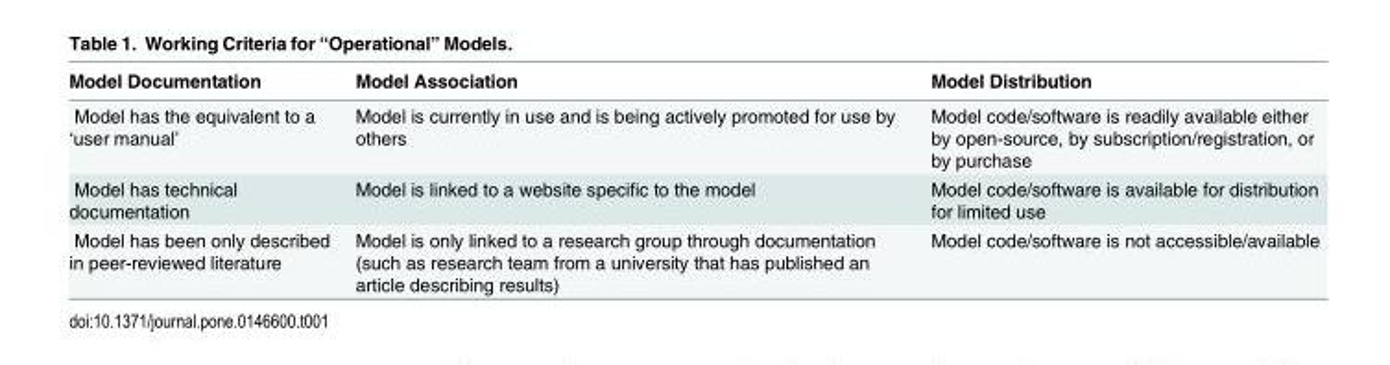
<table><thead><tr><td>Model Documentation</td><td>Model Association</td><td>Model Distribution</td></tr></thead><tbody><tr><td>Model has the equivalent to a ‘user manual’</td><td>Model is currently in use and is being actively promoted for use by others</td><td>Model code/software is readily available either by open-source, by subscription/registration, or by purchase</td></tr><tr><td>Model has technical documentation</td><td>Model is linked to a website specific to the model</td><td>Model code/software is available for distribution for limited use</td></tr><tr><td>Model has been only described in peer-reviewed literature</td><td>Model is only linked to a research group through documentation (such as research team from a university that has published an article describing results)</td><td>Model code/software is not accessible/available</td></tr></tbody></table>